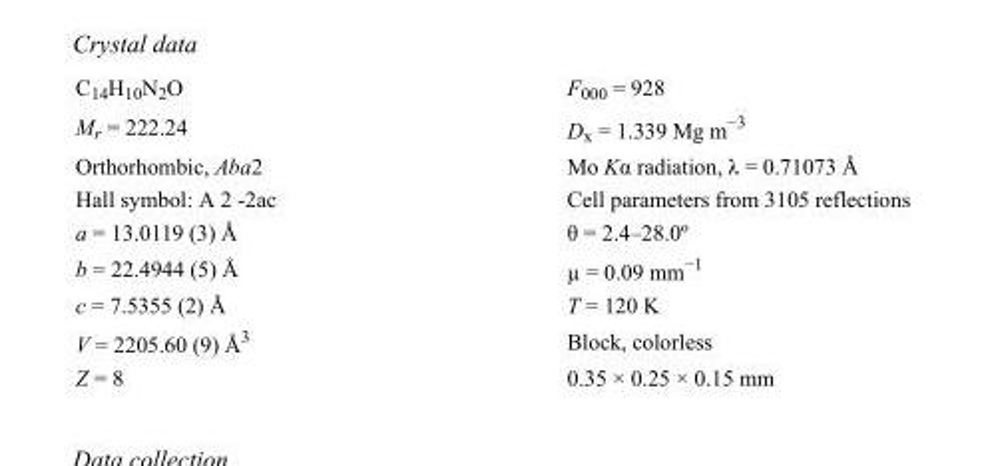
<table><tbody><tr><td>C<sub>14</sub>H<sub>10</sub>N<sub>2</sub>O</td><td>F000 = 928</td></tr><tr><td>M<sub>r</sub> = 222.24</td><td>D<sub>x</sub> = 1.339 Mg m<sup>−3</sup></td></tr><tr><td>Orthorhombic, Aba2</td><td>Mo Kα radiation, λ = 0.71073 Å</td></tr><tr><td>Hall symbol: A 2 -2ac</td><td>Cell parameters from 3105 reflections</td></tr><tr><td>a = 13.0119 (3) Å</td><td>θ = 2.4–28.0º</td></tr><tr><td>b = 22.4944 (5) Å</td><td>µ = 0.09 mm<sup>−1</sup></td></tr><tr><td>c = 7.5355 (2) Å</td><td>T = 120 K</td></tr><tr><td>V = 2205.60 (9) Å<sup>3</sup></td><td>Block, colorless</td></tr><tr><td>Z = 8</td><td>0.35 × 0.25 × 0.15 mm</td></tr></tbody></table>